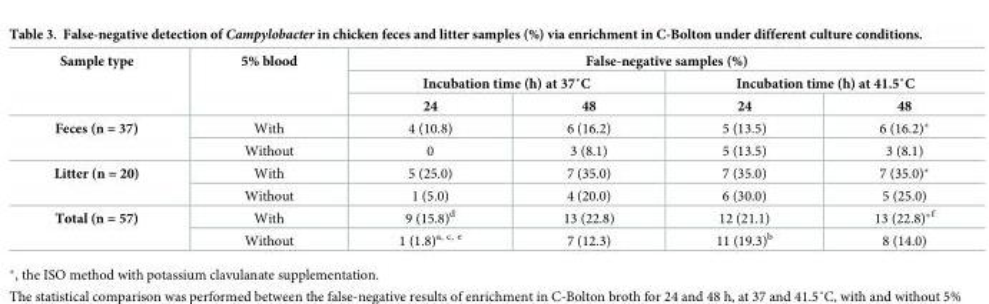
<table><thead><tr><td rowspan="3">Sample type</td><td rowspan="3">5% blood</td><td colspan="4">False-negative samples (%)</td></tr><tr><td colspan="2">Incubation time (h) at 37˚C</td><td colspan="2">Incubation time (h) at 41.5˚C</td></tr><tr><td>24</td><td>48</td><td>24</td><td>48</td></tr></thead><tbody><tr><td rowspan="2">Feces (n = 37)</td><td>With</td><td>4 (10.8)</td><td>6 (16.2)</td><td>5 (13.5)</td><td>6 (16.2)*</td></tr><tr><td>Without</td><td>0</td><td>3 (8.1)</td><td>5 (13.5)</td><td>3 (8.1)</td></tr><tr><td rowspan="2">Litter (n = 20)</td><td>With</td><td>5 (25.0)</td><td>7 (35.0)</td><td>7 (35.0)</td><td>7 (35.0)*</td></tr><tr><td>Without</td><td>1 (5.0)</td><td>4 (20.0)</td><td>6 (30.0)</td><td>5 (25.0)</td></tr><tr><td rowspan="2">Total (n = 57)</td><td>With</td><td>9 (15.8)<sup>d</sup></td><td>13 (22.8)</td><td>12 (21.1)</td><td>13 (22.8)*<sup>f</sup></td></tr><tr><td>Without</td><td>1 (1.8)<sup>a, c, e</sup></td><td>7 (12.3)</td><td>11 (19.3)<sup>b</sup></td><td>8 (14.0)</td></tr></tbody></table>